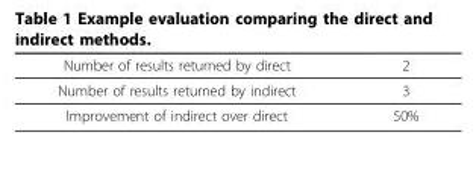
<table><thead><tr><td>Number of results returned by direct</td><td>2</td></tr></thead><tbody><tr><td>Number of results returned by indirect</td><td>3</td></tr><tr><td>Improvement of indirect over direct</td><td>50%</td></tr></tbody></table>